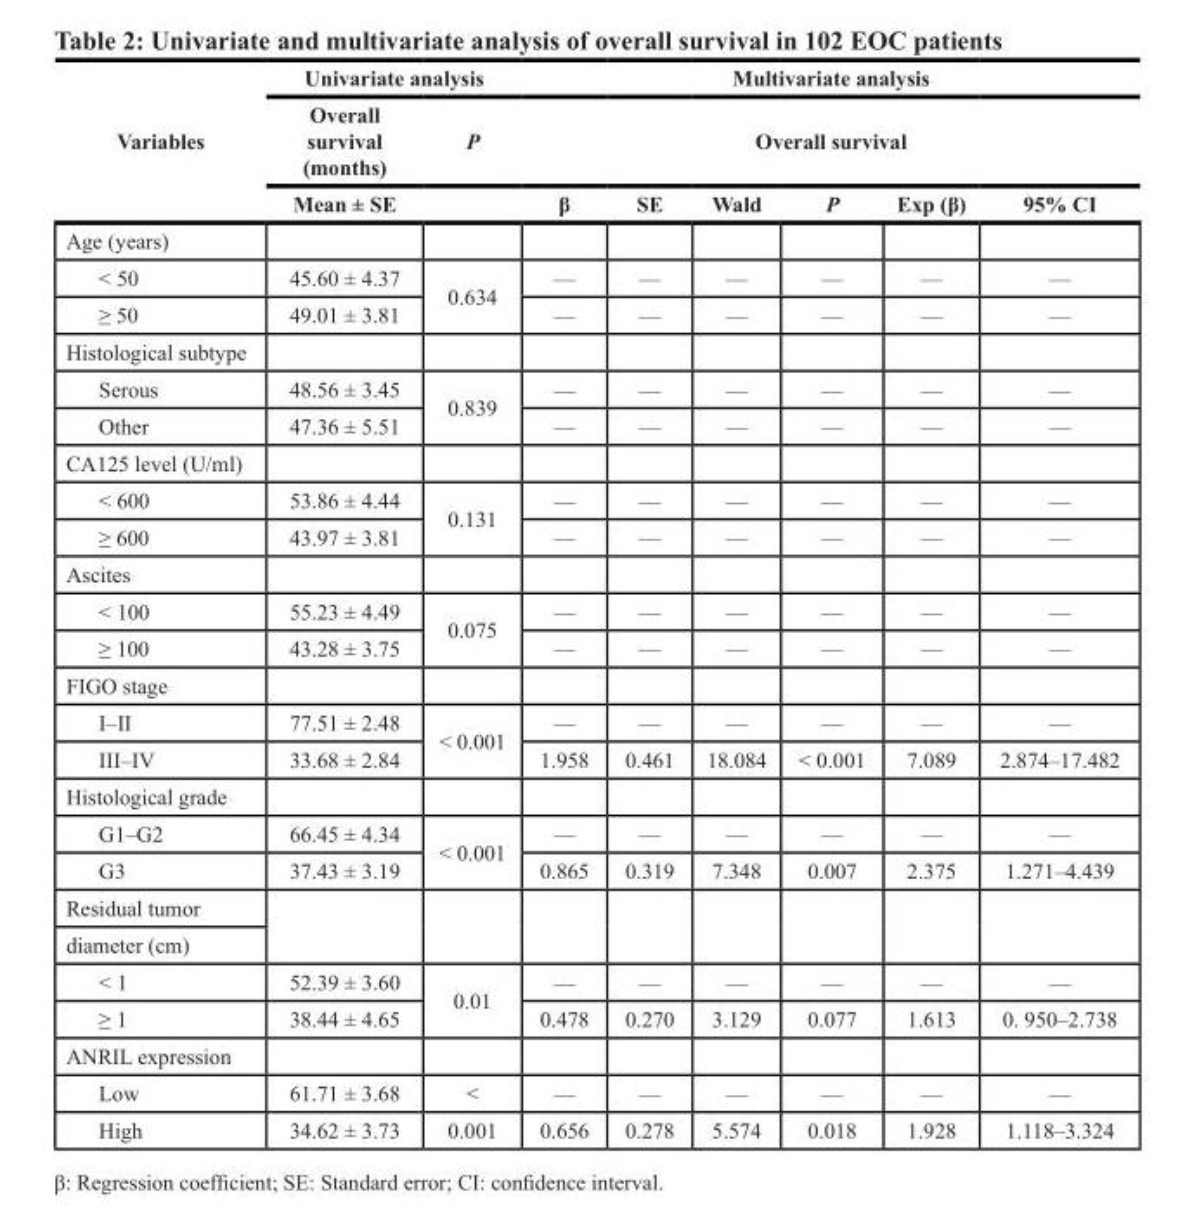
<table><thead><tr><td rowspan="3">Variables</td><td colspan="2">Univariate analysis</td><td rowspan="2" colspan="6">Multivariate analysis Overall survival</td></tr><tr><td rowspan="2">Overall survival (months) Mean ± SE</td><td rowspan="2">P</td></tr><tr><td>β</td><td>SE</td><td>Wald</td><td>P</td><td>Exp (β)</td><td>95% CI</td></tr></thead><tbody><tr><td colspan="9">Age (years)</td></tr><tr><td>&lt; 50</td><td>45.60 ± 4.37</td><td rowspan="2">0.634</td><td>—</td><td>—</td><td>—</td><td>—</td><td>—</td><td>—</td></tr><tr><td>≥ 50</td><td>49.01 ± 3.81</td><td>—</td><td>—</td><td>—</td><td>—</td><td>—</td><td>—</td></tr><tr><td colspan="9">Histological subtype</td></tr><tr><td>Serous</td><td>48.56 ± 3.45</td><td rowspan="2">0.839</td><td>—</td><td>—</td><td>—</td><td>—</td><td>—</td><td>—</td></tr><tr><td>Other</td><td>47.36 ± 5.51</td><td>—</td><td>—</td><td>—</td><td>—</td><td>—</td><td>—</td></tr><tr><td colspan="9">CA125 level (U/ml)</td></tr><tr><td>&lt; 600</td><td>53.86 ± 4.44</td><td rowspan="2">0.131</td><td>—</td><td>—</td><td>—</td><td>—</td><td>—</td><td>—</td></tr><tr><td>≥ 600</td><td>43.97 ± 3.81</td><td>—</td><td>—</td><td>—</td><td>—</td><td>—</td><td>—</td></tr><tr><td colspan="9">Ascites</td></tr><tr><td>&lt; 100</td><td>55.23 ± 4.49</td><td rowspan="2">0.075</td><td>—</td><td>—</td><td>—</td><td>—</td><td>—</td><td>—</td></tr><tr><td>≥ 100</td><td>43.28 ± 3.75</td><td>—</td><td>—</td><td>—</td><td>—</td><td>—</td><td>—</td></tr><tr><td colspan="9">FIGO stage</td></tr><tr><td>I–II</td><td>77.51 ± 2.48</td><td rowspan="2">&lt; 0.001</td><td>—</td><td>—</td><td>—</td><td>—</td><td>—</td><td>—</td></tr><tr><td>III–IV</td><td>33.68 ± 2.84</td><td>1.958</td><td>0.461</td><td>18.084</td><td>&lt; 0.001</td><td>7.089</td><td>2.874–17.482</td></tr><tr><td colspan="9">Histological grade</td></tr><tr><td>G1–G2</td><td>66.45 ± 4.34</td><td rowspan="2">&lt; 0.001</td><td>—</td><td>—</td><td>—</td><td>—</td><td>—</td><td>—</td></tr><tr><td>G3</td><td>37.43 ± 3.19</td><td>0.865</td><td>0.319</td><td>7.348</td><td>0.007</td><td>2.375</td><td>1.271–4.439</td></tr><tr><td>Residual tumor</td><td rowspan="2"></td><td rowspan="2"></td><td rowspan="2"></td><td rowspan="2"></td><td rowspan="2"></td><td rowspan="2"></td><td rowspan="2"></td><td rowspan="2"></td></tr><tr><td>diameter (cm)</td></tr><tr><td>&lt; 1</td><td>52.39 ± 3.60</td><td rowspan="2">0.01</td><td>—</td><td>—</td><td>—</td><td>—</td><td>—</td><td>—</td></tr><tr><td>≥ 1</td><td>38.44 ± 4.65</td><td>0.478</td><td>0.270</td><td>3.129</td><td>0.077</td><td>1.613</td><td>0. 950–2.738</td></tr><tr><td colspan="9">ANRIL expression</td></tr><tr><td>Low</td><td>61.71 ± 3.68</td><td>&lt;</td><td>—</td><td>—</td><td>—</td><td>—</td><td>—</td><td>—</td></tr><tr><td>High</td><td>34.62 ± 3.73</td><td>0.001</td><td>0.656</td><td>0.278</td><td>5.574</td><td>0.018</td><td>1.928</td><td>1.118–3.324</td></tr></tbody></table>